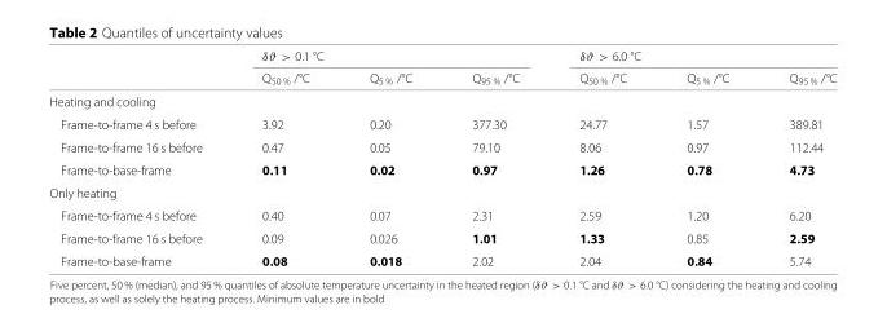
<table><thead><tr><td rowspan="2"></td><td colspan="3">δϑ &gt; 0.1 °C</td><td colspan="3">δϑ &gt; 6.0 °C</td></tr><tr><td>Q<sub>50 %</sub> /°C</td><td>Q<sub>5 %</sub> /°C</td><td>Q<sub>95 %</sub> /°C</td><td>Q<sub>50 %</sub> /°C</td><td>Q<sub>5 %</sub> /°C</td><td>Q<sub>95 %</sub> /°C</td></tr></thead><tbody><tr><td colspan="7">Heating and cooling</td></tr><tr><td>Frame-to-frame 4 s before</td><td>3.92</td><td>0.20</td><td>377.30</td><td>24.77</td><td>1.57</td><td>389.81</td></tr><tr><td>Frame-to-frame 16 s before</td><td>0.47</td><td>0.05</td><td>79.10</td><td>8.06</td><td>0.97</td><td>112.44</td></tr><tr><td>Frame-to-base-frame</td><td>0.11</td><td>0.02</td><td>0.97</td><td>1.26</td><td>0.78</td><td>4.73</td></tr><tr><td colspan="7">Only heating</td></tr><tr><td>Frame-to-frame 4 s before</td><td>0.40</td><td>0.07</td><td>2.31</td><td>2.59</td><td>1.20</td><td>6.20</td></tr><tr><td>Frame-to-frame 16 s before</td><td>0.09</td><td>0.026</td><td>1.01</td><td>1.33</td><td>0.85</td><td>2.59</td></tr><tr><td>Frame-to-base-frame</td><td>0.08</td><td>0.018</td><td>2.02</td><td>2.04</td><td>0.84</td><td>5.74</td></tr></tbody></table>